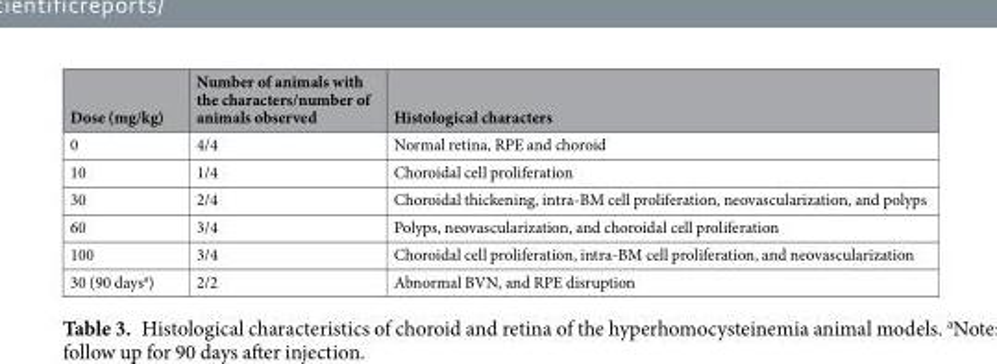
<table><thead><tr><td>Dose (mg/kg)</td><td>Number of animals with the characters/number of animals observed</td><td>Histological characters</td></tr></thead><tbody><tr><td>0</td><td>4/4</td><td>Normal retina, RPE and choroid</td></tr><tr><td>10</td><td>1/4</td><td>Choroidal cell proliferation</td></tr><tr><td>30</td><td>2/4</td><td>Choroidal thickening, intra-BM cell proliferation, neovascularization, and polyps</td></tr><tr><td>60</td><td>3/4</td><td>Polyps, neovascularization, and choroidal cell proliferation</td></tr><tr><td>100</td><td>3/4</td><td>Choroidal cell proliferation, intra-BM cell proliferation, and neovascularization</td></tr><tr><td>30 (90 days<sup>a</sup>)</td><td>2/2</td><td>Abnormal BVN, and RPE disruption</td></tr></tbody></table>